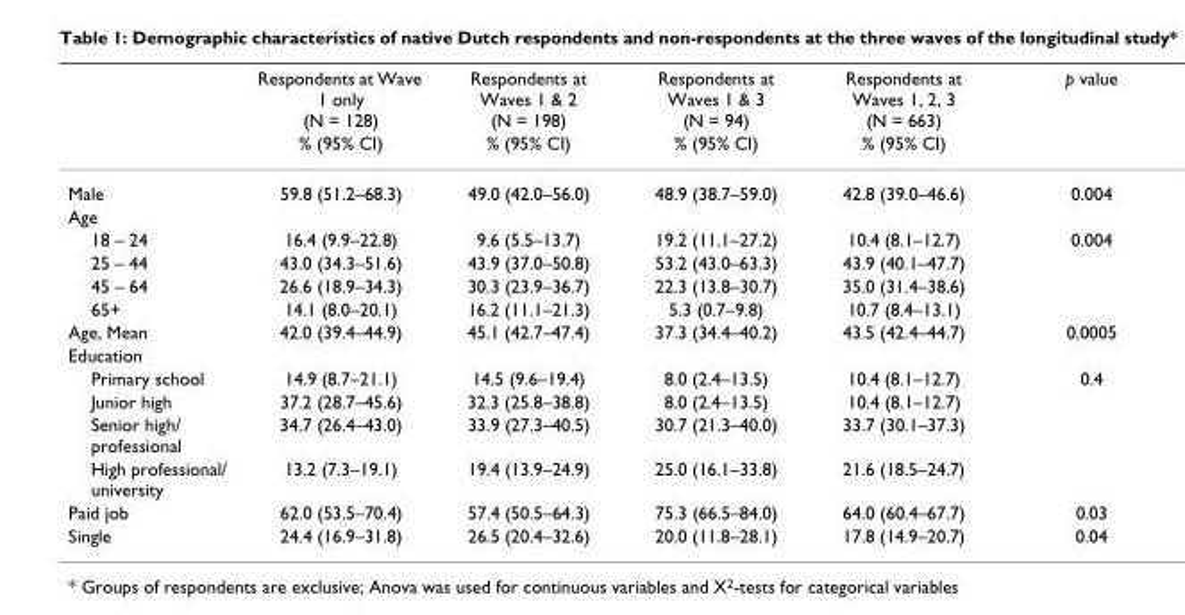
<table><thead><tr><td rowspan="2"></td><td rowspan="2">Respondents at Wave 1 only (N = 128) % (95% CI)</td><td rowspan="2">Respondents at Waves 1 &amp; 2 (N = 198) % (95% CI)</td><td rowspan="2">Respondents at Waves 1 &amp; 3 (N = 94) % (95% CI)</td><td rowspan="2">Respondents at Waves 1, 2, 3 (N = 663) % (95% CI)</td><td rowspan="2">p value</td></tr><tr></tr></thead><tbody><tr><td>Male</td><td>59.8 (51.2–68.3)</td><td>49.0 (42.0–56.0)</td><td>48.9 (38.7–59.0)</td><td>42.8 (39.0–46.6)</td><td>0.004</td></tr><tr><td colspan="6">Age</td></tr><tr><td>18 – 24</td><td>16.4 (9.9–22.8)</td><td>9.6 (5.5–13.7)</td><td>19.2 (11.1–27.2)</td><td>10.4 (8.1–12.7)</td><td>0.004</td></tr><tr><td>25 – 44</td><td>43.0 (34.3–51.6)</td><td>43.9 (37.0–50.8)</td><td>53.2 (43.0–63.3)</td><td>43.9 (40.1–47.7)</td><td></td></tr><tr><td>45 – 64</td><td>26.6 (18.9–34.3)</td><td>30.3 (23.9–36.7)</td><td>22.3 (13.8–30.7)</td><td>35.0 (31.4–38.6)</td><td></td></tr><tr><td>65+</td><td>14.1 (8.0–20.1)</td><td>16.2 (11.1–21.3)</td><td>5.3 (0.7–9.8)</td><td>10.7 (8.4–13.1)</td><td></td></tr><tr><td>Age, Mean</td><td>42.0 (39.4–44.9)</td><td>45.1 (42.7–47.4)</td><td>37.3 (34.4–40.2)</td><td>43.5 (42.4–44.7)</td><td>0.0005</td></tr><tr><td colspan="6">Education</td></tr><tr><td>Primary school</td><td>14.9 (8.7–21.1)</td><td>14.5 (9.6–19.4)</td><td>8.0 (2.4–13.5)</td><td>10.4 (8.1–12.7)</td><td>0.4</td></tr><tr><td>Junior high</td><td>37.2 (28.7–45.6)</td><td>32.3 (25.8–38.8)</td><td>8.0 (2.4–13.5)</td><td>10.4 (8.1–12.7)</td><td></td></tr><tr><td>Senior high/ professional</td><td>34.7 (26.4–43.0)</td><td>33.9 (27.3–40.5)</td><td>30.7 (21.3–40.0)</td><td>33.7 (30.1–37.3)</td><td></td></tr><tr><td>High professional/ university</td><td>13.2 (7.3–19.1)</td><td>19.4 (13.9–24.9)</td><td>25.0 (16.1–33.8)</td><td>21.6 (18.5–24.7)</td><td></td></tr><tr><td>Paid job</td><td>62.0 (53.5–70.4)</td><td>57.4 (50.5–64.3)</td><td>75.3 (66.5–84.0)</td><td>64.0 (60.4–67.7)</td><td>0.03</td></tr><tr><td>Single</td><td>24.4 (16.9–31.8)</td><td>26.5 (20.4–32.6)</td><td>20.0 (11.8–28.1)</td><td>17.8 (14.9–20.7)</td><td>0.04</td></tr></tbody></table>